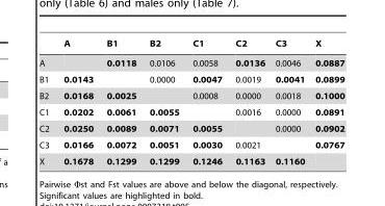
<table><thead><tr><td></td><td>A</td><td>B1</td><td>B2</td><td>C1</td><td>C2</td><td>C3</td><td>X</td></tr></thead><tbody><tr><td>A</td><td></td><td>0.0118</td><td>0.0106</td><td>0.0058</td><td>0.0136</td><td>0.0046</td><td>0.0887</td></tr><tr><td>B1</td><td>0.0143</td><td></td><td>0.0000</td><td>0.0047</td><td>0.0019</td><td>0.0041</td><td>0.0899</td></tr><tr><td>B2</td><td>0.0168</td><td>0.0025</td><td></td><td>0.0008</td><td>0.0000</td><td>0.0018</td><td>0.1000</td></tr><tr><td>C1</td><td>0.0202</td><td>0.0061</td><td>0.0055</td><td></td><td>0.0016</td><td>0.0000</td><td>0.0891</td></tr><tr><td>C2</td><td>0.0250</td><td>0.0089</td><td>0.0071</td><td>0.0055</td><td></td><td>0.0000</td><td>0.0902</td></tr><tr><td>C3</td><td>0.0166</td><td>0.0072</td><td>0.0051</td><td>0.0030</td><td>0.0021</td><td></td><td>0.0767</td></tr><tr><td>X</td><td>0.1678</td><td>0.1299</td><td>0.1299</td><td>0.1246</td><td>0.1163</td><td>0.1160</td><td></td></tr></tbody></table>